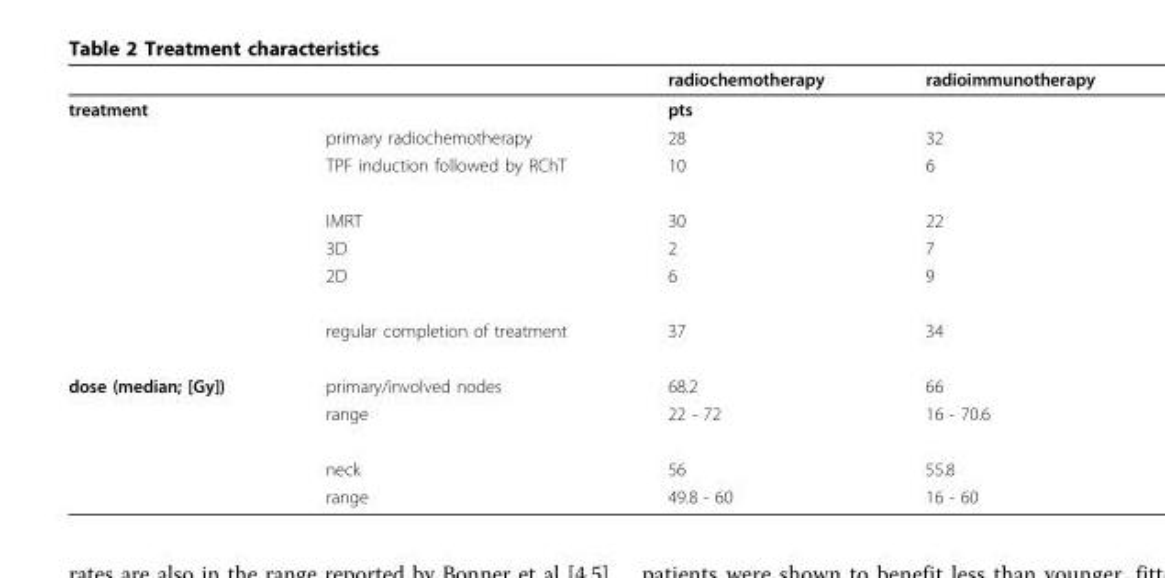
<table><thead><tr><td></td><td></td><td>radiochemotherapy</td><td>radioimmunotherapy</td></tr></thead><tbody><tr><td rowspan="7">treatment</td><td></td><td>pts</td><td></td></tr><tr><td>primary radiochemotherapy</td><td>28</td><td>32</td></tr><tr><td>TPF induction followed by RChT</td><td>10</td><td>6</td></tr><tr><td>IMRT</td><td>30</td><td>22</td></tr><tr><td>3D</td><td>2</td><td>7</td></tr><tr><td>2D</td><td>6</td><td>9</td></tr><tr><td>regular completion of treatment</td><td>37</td><td>34</td></tr><tr><td rowspan="4">dose (median; [Gy])</td><td>primary/involved nodes</td><td>68.2</td><td>66</td></tr><tr><td>range</td><td>22 - 72</td><td>16 - 70.6</td></tr><tr><td>neck</td><td>56</td><td>55.8</td></tr><tr><td>range</td><td>49.8 - 60</td><td>16 - 60</td></tr></tbody></table>